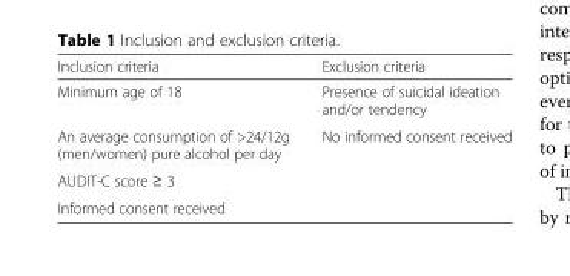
<table><thead><tr><td>Inclusion criteria</td><td>Exclusion criteria</td></tr></thead><tbody><tr><td>Minimum age of 18</td><td>Presence of suicidal ideation and/or tendency</td></tr><tr><td>An average consumption of &gt;24/12g (men/women) pure alcohol per day</td><td>No informed consent received</td></tr><tr><td colspan="2">AUDIT-C score ≥ 3</td></tr><tr><td>Informed consent received</td><td></td></tr></tbody></table>